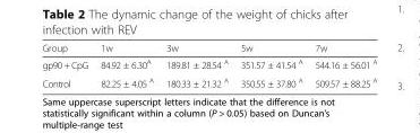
<table><thead><tr><td>Group</td><td>1w</td><td>3w</td><td>5w</td><td>7w</td></tr></thead><tbody><tr><td>gp90 + CpG</td><td>84.92 ± 6.30<sup>A</sup></td><td>189.81 ± 28.54 <sup>A</sup></td><td>351.57 ± 41.54 <sup>A</sup></td><td>544.16 ± 56.01 <sup>A</sup></td></tr><tr><td>Control</td><td>82.25 ± 4.05 <sup>A</sup></td><td>180.33 ± 21.32 <sup>A</sup></td><td>350.55 ± 37.80 <sup>A</sup></td><td>509.57 ± 88.25 <sup>A</sup></td></tr></tbody></table>